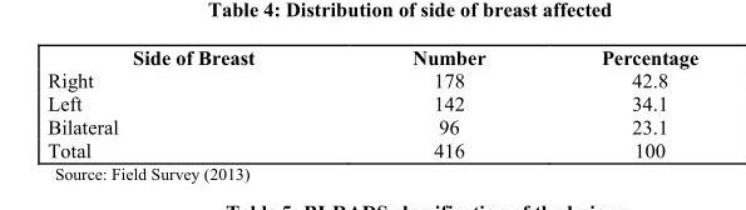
<table><thead><tr><td>Side of Breast</td><td>Number</td><td>Percentage</td></tr></thead><tbody><tr><td>Right</td><td>178</td><td>42.8</td></tr><tr><td>Left</td><td>142</td><td>34.1</td></tr><tr><td>Bilateral</td><td>96</td><td>23.1</td></tr><tr><td>Total</td><td>416</td><td>100</td></tr></tbody></table>